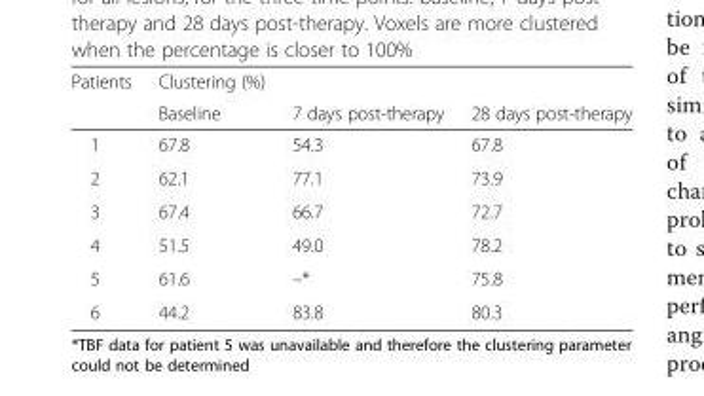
<table><thead><tr><td rowspan="2">Patients</td><td rowspan="2">Clustering (%) Baseline</td><td rowspan="2">7 days post-therapy</td><td rowspan="2">28 days post-therapy</td></tr><tr></tr></thead><tbody><tr><td>1</td><td>67.8</td><td>54.3</td><td>67.8</td></tr><tr><td>2</td><td>62.1</td><td>77.1</td><td>73.9</td></tr><tr><td>3</td><td>67.4</td><td>66.7</td><td>72.7</td></tr><tr><td>4</td><td>51.5</td><td>49.0</td><td>78.2</td></tr><tr><td>5</td><td>61.6</td><td>–*</td><td>75.8</td></tr><tr><td>6</td><td>44.2</td><td>83.8</td><td>80.3</td></tr></tbody></table>